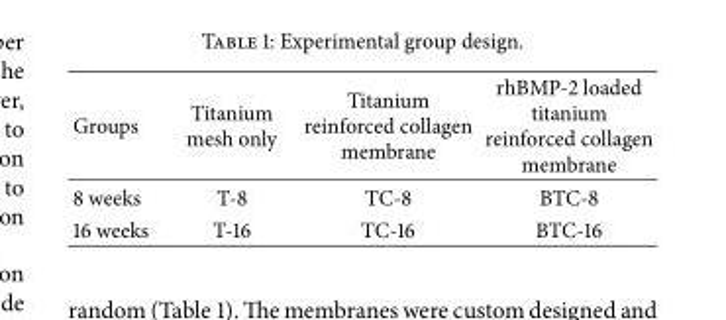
<table><thead><tr><td>Groups</td><td>Titanium mesh only</td><td>Titanium reinforced collagen membrane</td><td>rhBMP-2 loaded titanium reinforced collagen membrane</td></tr></thead><tbody><tr><td>8 weeks</td><td>T-8</td><td>TC-8</td><td>BTC-8</td></tr><tr><td>16 weeks</td><td>T-16</td><td>TC-16</td><td>BTC-16</td></tr></tbody></table>